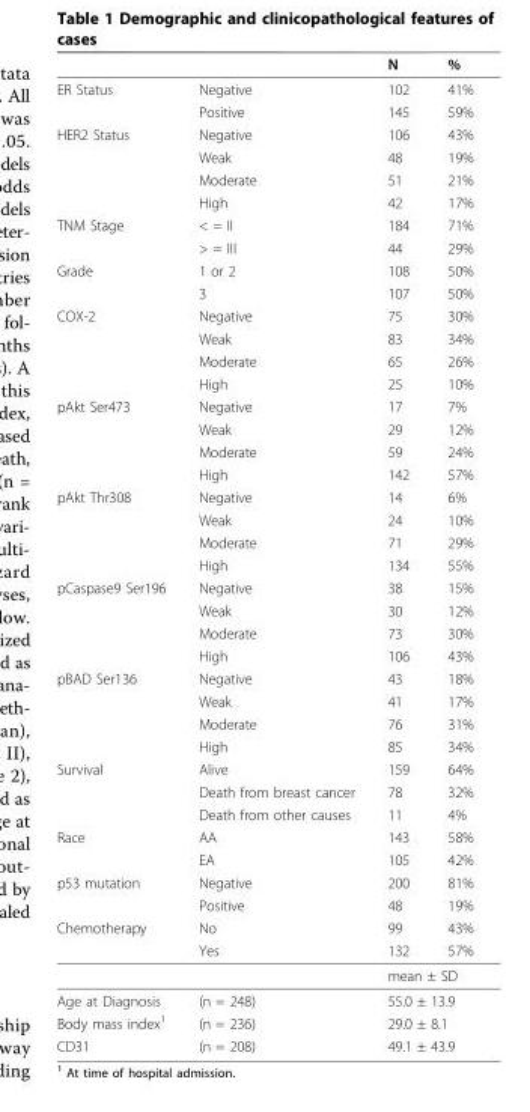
<table><thead><tr><td></td><td></td><td>N</td><td>%</td></tr></thead><tbody><tr><td rowspan="2">ER Status</td><td>Negative</td><td>102</td><td>41%</td></tr><tr><td>Positive</td><td>145</td><td>59%</td></tr><tr><td rowspan="4">HER2 Status</td><td>Negative</td><td>106</td><td>43%</td></tr><tr><td>Weak</td><td>48</td><td>19%</td></tr><tr><td>Moderate</td><td>51</td><td>21%</td></tr><tr><td>High</td><td>42</td><td>17%</td></tr><tr><td rowspan="2">TNM Stage</td><td>&lt; = II</td><td>184</td><td>71%</td></tr><tr><td>&gt; = III</td><td>44</td><td>29%</td></tr><tr><td rowspan="2">Grade</td><td>1 or 2</td><td>108</td><td>50%</td></tr><tr><td>3</td><td>107</td><td>50%</td></tr><tr><td rowspan="4">COX-2</td><td>Negative</td><td>75</td><td>30%</td></tr><tr><td>Weak</td><td>83</td><td>34%</td></tr><tr><td>Moderate</td><td>65</td><td>26%</td></tr><tr><td>High</td><td>25</td><td>10%</td></tr><tr><td rowspan="4">pAkt Ser473</td><td>Negative</td><td>17</td><td>7%</td></tr><tr><td>Weak</td><td>29</td><td>12%</td></tr><tr><td>Moderate</td><td>59</td><td>24%</td></tr><tr><td>High</td><td>142</td><td>57%</td></tr><tr><td rowspan="4">pAkt Thr308</td><td>Negative</td><td>14</td><td>6%</td></tr><tr><td>Weak</td><td>24</td><td>10%</td></tr><tr><td>Moderate</td><td>71</td><td>29%</td></tr><tr><td>High</td><td>134</td><td>55%</td></tr><tr><td rowspan="4">pCaspase9 Ser196</td><td>Negative</td><td>38</td><td>15%</td></tr><tr><td>Weak</td><td>30</td><td>12%</td></tr><tr><td>Moderate</td><td>73</td><td>30%</td></tr><tr><td>High</td><td>106</td><td>43%</td></tr><tr><td rowspan="4">pBAD Ser136</td><td>Negative</td><td>43</td><td>18%</td></tr><tr><td>Weak</td><td>41</td><td>17%</td></tr><tr><td>Moderate</td><td>76</td><td>31%</td></tr><tr><td>High</td><td>85</td><td>34%</td></tr><tr><td rowspan="3">Survival</td><td>Alive</td><td>159</td><td>64%</td></tr><tr><td>Death from breast cancer</td><td>78</td><td>32%</td></tr><tr><td>Death from other causes</td><td>11</td><td>4%</td></tr><tr><td rowspan="2">Race</td><td>AA</td><td>143</td><td>58%</td></tr><tr><td>EA</td><td>105</td><td>42%</td></tr><tr><td rowspan="2">p53 mutation</td><td>Negative</td><td>200</td><td>81%</td></tr><tr><td>Positive</td><td>48</td><td>19%</td></tr><tr><td rowspan="3">Chemotherapy</td><td>No</td><td>99</td><td>43%</td></tr><tr><td>Yes</td><td>132</td><td>57%</td></tr><tr><td></td><td colspan="2">mean ± SD</td></tr><tr><td>Age at Diagnosis</td><td>(n = 248)</td><td colspan="2">55.0 ± 13.9</td></tr><tr><td>Body mass index<sup>1</sup></td><td>(n = 236)</td><td colspan="2">29.0 ± 8.1</td></tr><tr><td>CD31</td><td>(n = 208)</td><td colspan="2">49.1 ± 43.9</td></tr></tbody></table>